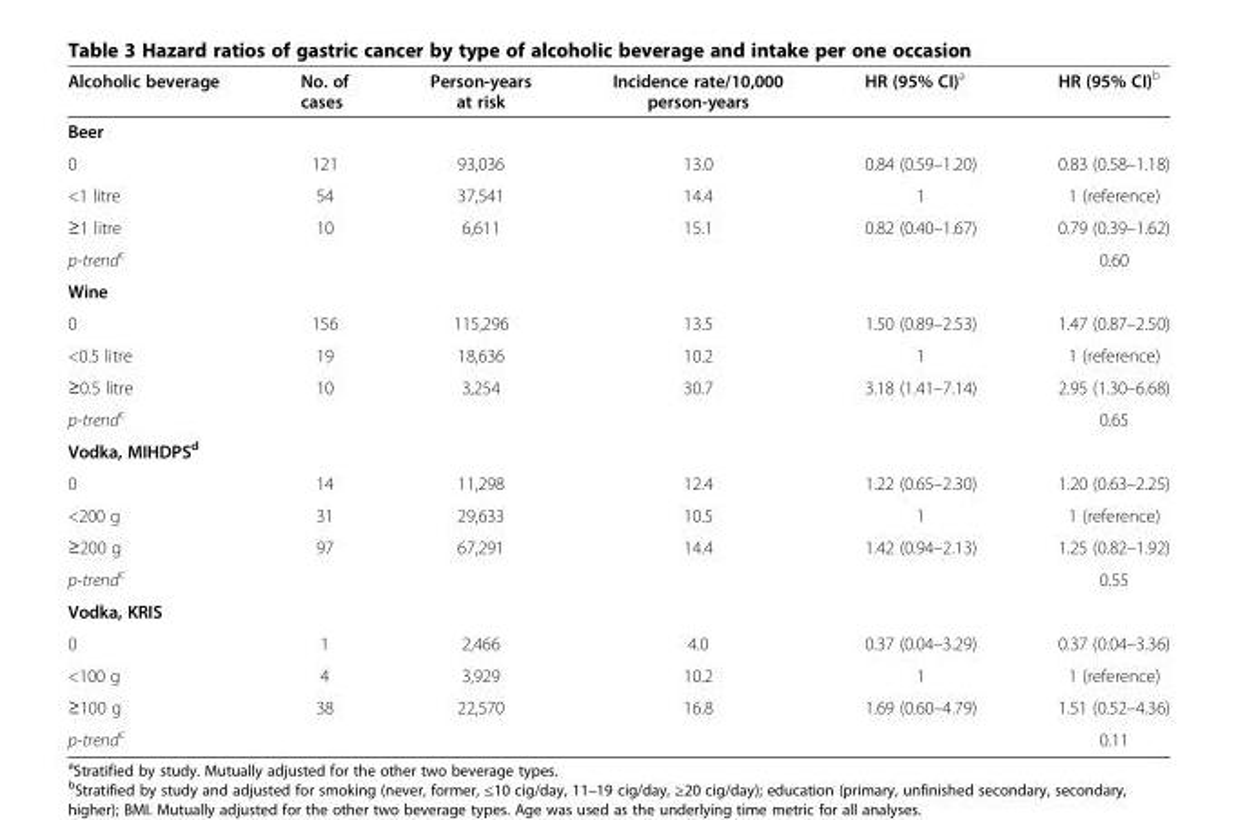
<table><thead><tr><td>Alcoholic beverage</td><td>No. of cases</td><td>Person-years at risk</td><td>Incidence rate/10,000 person-years</td><td>HR (95% CI)<sup>a</sup></td><td>HR (95% CI)<sup>b</sup></td></tr></thead><tbody><tr><td colspan="6">Beer</td></tr><tr><td>0</td><td>121</td><td>93,036</td><td>13.0</td><td>0.84 (0.59–1.20)</td><td>0.83 (0.58–1.18)</td></tr><tr><td>&lt;1 litre</td><td>54</td><td>37,541</td><td>14.4</td><td>1</td><td>1 (reference)</td></tr><tr><td>≥1 litre</td><td>10</td><td>6,611</td><td>15.1</td><td>0.82 (0.40–1.67)</td><td>0.79 (0.39–1.62)</td></tr><tr><td>p-trend<sup>c</sup></td><td></td><td></td><td></td><td></td><td>0.60</td></tr><tr><td colspan="6">Wine</td></tr><tr><td>0</td><td>156</td><td>115,296</td><td>13.5</td><td>1.50 (0.89–2.53)</td><td>1.47 (0.87–2.50)</td></tr><tr><td>&lt;0.5 litre</td><td>19</td><td>18,636</td><td>10.2</td><td>1</td><td>1 (reference)</td></tr><tr><td>≥0.5 litre</td><td>10</td><td>3,254</td><td>30.7</td><td>3.18 (1.41–7.14)</td><td>2.95 (1.30–6.68)</td></tr><tr><td>p-trend<sup>c</sup></td><td></td><td></td><td></td><td></td><td>0.65</td></tr><tr><td colspan="6">Vodka, MIHDPS<sup>d</sup></td></tr><tr><td>0</td><td>14</td><td>11,298</td><td>12.4</td><td>1.22 (0.65–2.30)</td><td>1.20 (0.63–2.25)</td></tr><tr><td>&lt;200 g</td><td>31</td><td>29,633</td><td>10.5</td><td>1</td><td>1 (reference)</td></tr><tr><td>≥200 g</td><td>97</td><td>67,291</td><td>14.4</td><td>1.42 (0.94–2.13)</td><td>1.25 (0.82–1.92)</td></tr><tr><td>p-trend<sup>c</sup></td><td></td><td></td><td></td><td></td><td>0.55</td></tr><tr><td colspan="6">Vodka, KRIS</td></tr><tr><td>0</td><td>1</td><td>2,466</td><td>4.0</td><td>0.37 (0.04–3.29)</td><td>0.37 (0.04–3.36)</td></tr><tr><td>&lt;100 g</td><td>4</td><td>3,929</td><td>10.2</td><td>1</td><td>1 (reference)</td></tr><tr><td>≥100 g</td><td>38</td><td>22,570</td><td>16.8</td><td>1.69 (0.60–4.79)</td><td>1.51 (0.52–4.36)</td></tr><tr><td>p-trend<sup>c</sup></td><td></td><td></td><td></td><td></td><td>0.11</td></tr></tbody></table>